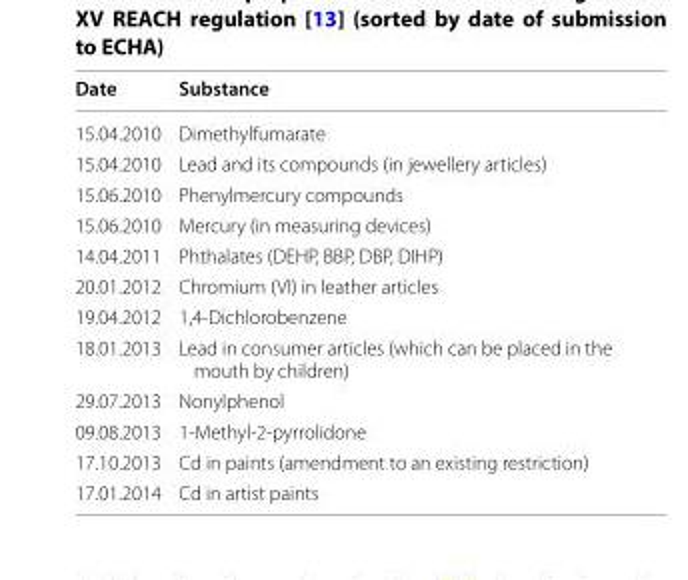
<table><thead><tr><td>Date</td><td>Substance</td></tr></thead><tbody><tr><td>15.04.2010</td><td>Dimethylfumarate</td></tr><tr><td>15.04.2010</td><td>Lead and its compounds (in jewellery articles)</td></tr><tr><td>15.06.2010</td><td>Phenylmercury compounds</td></tr><tr><td>15.06.2010</td><td>Mercury (in measuring devices)</td></tr><tr><td>14.04.2011</td><td>Phthalates (DEHP, BBP, DBP, DIHP)</td></tr><tr><td>20.01.2012</td><td>Chromium (VI) in leather articles</td></tr><tr><td>19.04.2012</td><td>1,4‑Dichlorobenzene</td></tr><tr><td>18.01.2013</td><td>Lead in consumer articles (which can be placed in the mouth by children)</td></tr><tr><td>29.07.2013</td><td>Nonylphenol</td></tr><tr><td>09.08.2013</td><td>1‑Methyl‑2‑pyrrolidone</td></tr><tr><td>17.10.2013</td><td>Cd in paints (amendment to an existing restriction)</td></tr><tr><td>17.01.2014</td><td>Cd in artist paints</td></tr></tbody></table>